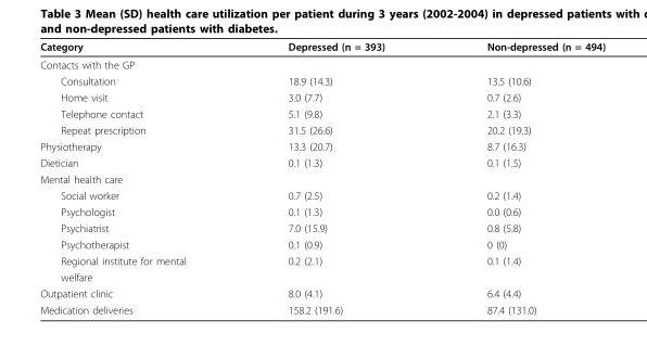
<table><thead><tr><td>Category</td><td>Depressed (n = 393)</td><td>Non-depressed (n = 494)</td></tr></thead><tbody><tr><td colspan="3">Contacts with the GP</td></tr><tr><td>Consultation</td><td>18.9 (14.3)</td><td>13.5 (10.6)</td></tr><tr><td>Home visit</td><td>3.0 (7.7)</td><td>0.7 (2.6)</td></tr><tr><td>Telephone contact</td><td>5.1 (9.8)</td><td>2.1 (3.3)</td></tr><tr><td>Repeat prescription</td><td>31.5 (26.6)</td><td>20.2 (19.3)</td></tr><tr><td>Physiotherapy</td><td>13.3 (20.7)</td><td>8.7 (16.3)</td></tr><tr><td>Dietician</td><td>0.1 (1.3)</td><td>0.1 (1.5)</td></tr><tr><td colspan="3">Mental health care</td></tr><tr><td>Social worker</td><td>0.7 (2.5)</td><td>0.2 (1.4)</td></tr><tr><td>Psychologist</td><td>0.1 (1.3)</td><td>0.0 (0.6)</td></tr><tr><td>Psychiatrist</td><td>7.0 (15.9)</td><td>0.8 (5.8)</td></tr><tr><td>Psychotherapist</td><td>0.1 (0.9)</td><td>0 (0)</td></tr><tr><td>Regional institute for mental</td><td>0.2 (2.1)</td><td>0.1 (1.4)</td></tr><tr><td colspan="3">welfare</td></tr><tr><td>Outpatient clinic</td><td>8.0 (4.1)</td><td>6.4 (4.4)</td></tr><tr><td>Medication deliveries</td><td>158.2 (191.6)</td><td>87.4 (131.0)</td></tr></tbody></table>